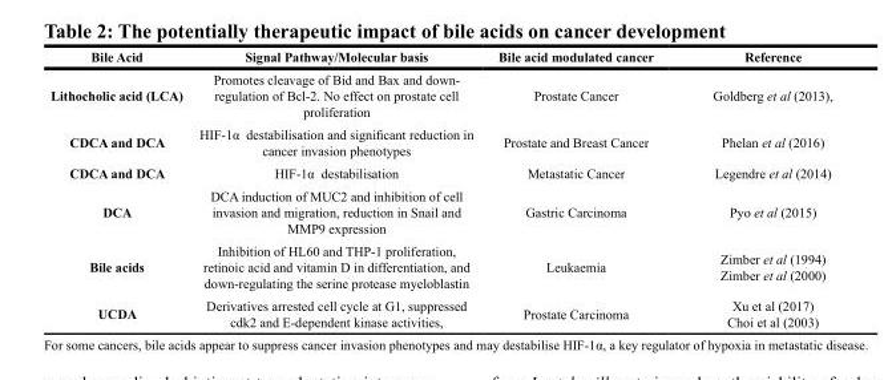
<table><thead><tr><td>Bile Acid</td><td>Signal Pathway/Molecular basis</td><td>Bile acid modulated cancer</td><td>Reference</td></tr></thead><tbody><tr><td>Lithocholic acid (LCA)</td><td>Promotes cleavage of Bid and Bax and down- regulation of Bcl-2. No effect on prostate cell proliferation</td><td>Prostate Cancer</td><td>Goldberg et al (2013),</td></tr><tr><td>CDCA and DCA</td><td>HIF-1α destabilisation and significant reduction in cancer invasion phenotypes</td><td>Prostate and Breast Cancer</td><td>Phelan et al (2016)</td></tr><tr><td>CDCA and DCA</td><td>HIF-1α destabilisation</td><td>Metastatic Cancer</td><td>Legendre et al (2014)</td></tr><tr><td>DCA</td><td>DCA induction of MUC2 and inhibition of cell invasion and migration, reduction in Snail and MMP9 expression</td><td>Gastric Carcinoma</td><td>Pyo et al (2015)</td></tr><tr><td>Bile acids</td><td>Inhibition of HL60 and THP-1 proliferation, retinoic acid and vitamin D in differentiation, and down-regulating the serine protease myeloblastin</td><td>Leukaemia</td><td>Zimber et al (1994) Zimber et al (2000)</td></tr><tr><td>UCDA</td><td>Derivatives arrested cell cycle at G1, suppressed cdk2 and E-dependent kinase activities,</td><td>Prostate Carcinoma</td><td>Xu et al (2017) Choi et al (2003)</td></tr></tbody></table>